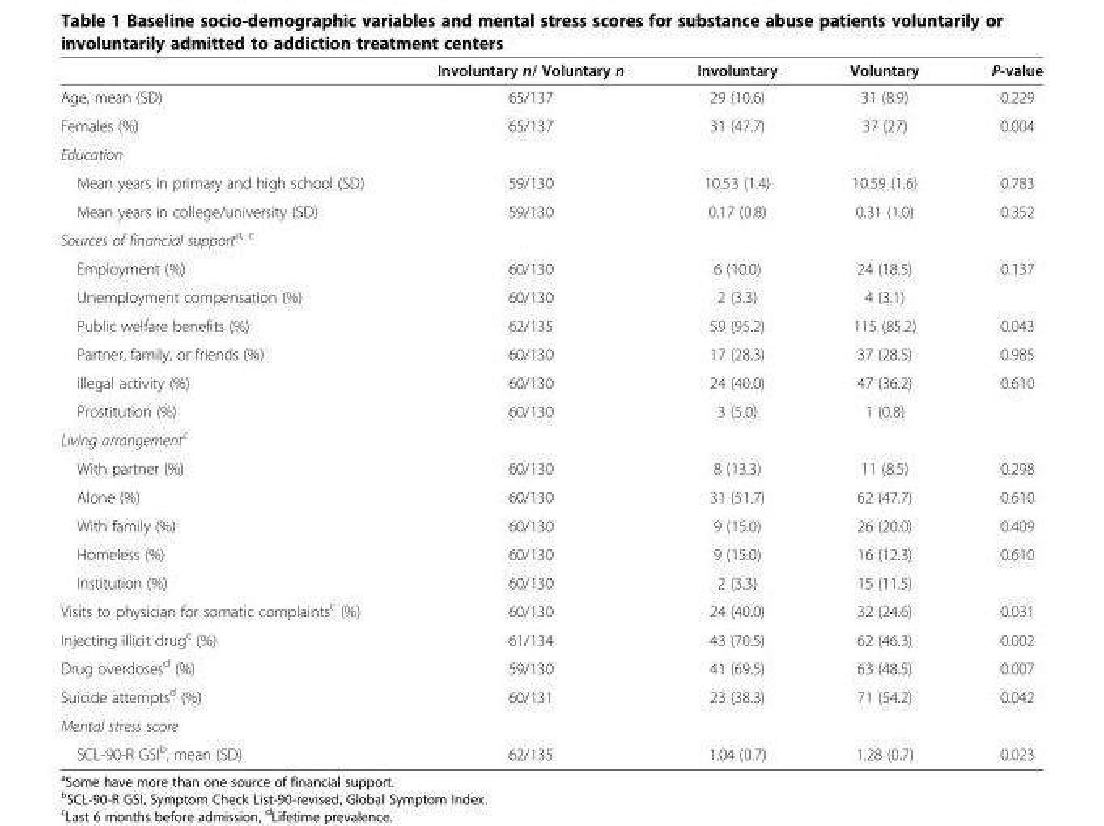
<table><thead><tr><td></td><td>Involuntary n/ Voluntary n</td><td>Involuntary</td><td>Voluntary</td><td>P-value</td></tr></thead><tbody><tr><td>Age, mean (SD)</td><td>65/137</td><td>29 (10.6)</td><td>31 (8.9)</td><td>0.229</td></tr><tr><td>Females (%)</td><td>65/137</td><td>31 (47.7)</td><td>37 (27)</td><td>0.004</td></tr><tr><td colspan="5">Education</td></tr><tr><td>Mean years in primary and high school (SD)</td><td>59/130</td><td>10.53 (1.4)</td><td>10.59 (1.6)</td><td>0.783</td></tr><tr><td>Mean years in college/university (SD)</td><td>59/130</td><td>0.17 (0.8)</td><td>0.31 (1.0)</td><td>0.352</td></tr><tr><td colspan="5">Sources of financial support<sup>a, c</sup></td></tr><tr><td>Employment (%)</td><td>60/130</td><td>6 (10.0)</td><td>24 (18.5)</td><td>0.137</td></tr><tr><td>Unemployment compensation (%)</td><td>60/130</td><td>2 (3.3)</td><td>4 (3.1)</td><td></td></tr><tr><td>Public welfare benefits (%)</td><td>62/135</td><td>59 (95.2)</td><td>115 (85.2)</td><td>0.043</td></tr><tr><td>Partner, family, or friends (%)</td><td>60/130</td><td>17 (28.3)</td><td>37 (28.5)</td><td>0.985</td></tr><tr><td>Illegal activity (%)</td><td>60/130</td><td>24 (40.0)</td><td>47 (36.2)</td><td>0.610</td></tr><tr><td>Prostitution (%)</td><td>60/130</td><td>3 (5.0)</td><td>1 (0.8)</td><td></td></tr><tr><td colspan="5">Living arrangement<sup>c</sup></td></tr><tr><td>With partner (%)</td><td>60/130</td><td>8 (13.3)</td><td>11 (8.5)</td><td>0.298</td></tr><tr><td>Alone (%)</td><td>60/130</td><td>31 (51.7)</td><td>62 (47.7)</td><td>0.610</td></tr><tr><td>With family (%)</td><td>60/130</td><td>9 (15.0)</td><td>26 (20.0)</td><td>0.409</td></tr><tr><td>Homeless (%)</td><td>60/130</td><td>9 (15.0)</td><td>16 (12.3)</td><td>0.610</td></tr><tr><td>Institution (%)</td><td>60/130</td><td>2 (3.3)</td><td>15 (11.5)</td><td></td></tr><tr><td>Visits to physician for somatic complaints<sup>c</sup> (%)</td><td>60/130</td><td>24 (40.0)</td><td>32 (24.6)</td><td>0.031</td></tr><tr><td>Injecting illicit drug<sup>c</sup> (%)</td><td>61/134</td><td>43 (70.5)</td><td>62 (46.3)</td><td>0.002</td></tr><tr><td>Drug overdoses<sup>d</sup> (%)</td><td>59/130</td><td>41 (69.5)</td><td>63 (48.5)</td><td>0.007</td></tr><tr><td>Suicide attempts<sup>d</sup> (%)</td><td>60/131</td><td>23 (38.3)</td><td>71 (54.2)</td><td>0.042</td></tr><tr><td colspan="5">Mental stress score</td></tr><tr><td>SCL-90-R GSI<sup>b</sup>, mean (SD)</td><td>62/135</td><td>1.04 (0.7)</td><td>1.28 (0.7)</td><td>0.023</td></tr></tbody></table>